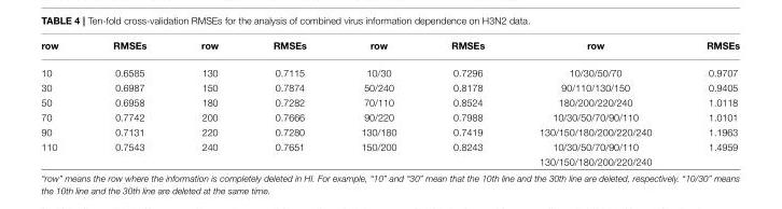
<table><thead><tr><td>row</td><td>RMSEs</td><td>row</td><td>RMSEs</td><td>row</td><td>RMSEs</td><td>row</td><td>RMSEs</td></tr></thead><tbody><tr><td>10</td><td>0.6585</td><td>130</td><td>0.7115</td><td>10/30</td><td>0.7296</td><td>10/30/50/70</td><td>0.9707</td></tr><tr><td>30</td><td>0.6987</td><td>150</td><td>0.7874</td><td>50/240</td><td>0.8178</td><td>90/110/130/150</td><td>0.9405</td></tr><tr><td>50</td><td>0.6958</td><td>180</td><td>0.7282</td><td>70/110</td><td>0.8524</td><td>180/200/220/240</td><td>1.0118</td></tr><tr><td>70</td><td>0.7742</td><td>200</td><td>0.7666</td><td>90/220</td><td>0.7988</td><td>10/30/50/70/90/110</td><td>1.0101</td></tr><tr><td>90</td><td>0.7131</td><td>220</td><td>0.7280</td><td>130/180</td><td>0.7419</td><td>130/150/180/200/220/240</td><td>1.1963</td></tr><tr><td rowspan="2">110</td><td>0.7543</td><td>240</td><td>0.7651</td><td>150/200</td><td>0.8243</td><td>10/30/50/70/90/110</td><td>1.4959</td></tr><tr><td></td><td></td><td></td><td></td><td></td><td>130/150/180/200/220/240</td><td></td></tr></tbody></table>